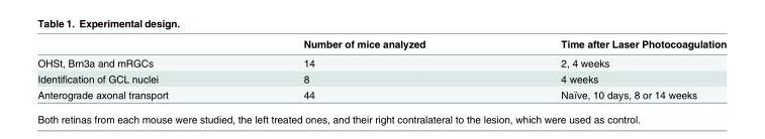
<table><thead><tr><td></td><td>Number of mice analyzed</td><td>Time after Laser Photocoagulation</td></tr></thead><tbody><tr><td>OHSt, Brn3a and mRGCs</td><td>14</td><td>2, 4 weeks</td></tr><tr><td>Identification of GCL nuclei</td><td>8</td><td>4 weeks</td></tr><tr><td>Anterograde axonal transport</td><td>44</td><td>Naïve, 10 days, 8 or 14 weeks</td></tr></tbody></table>